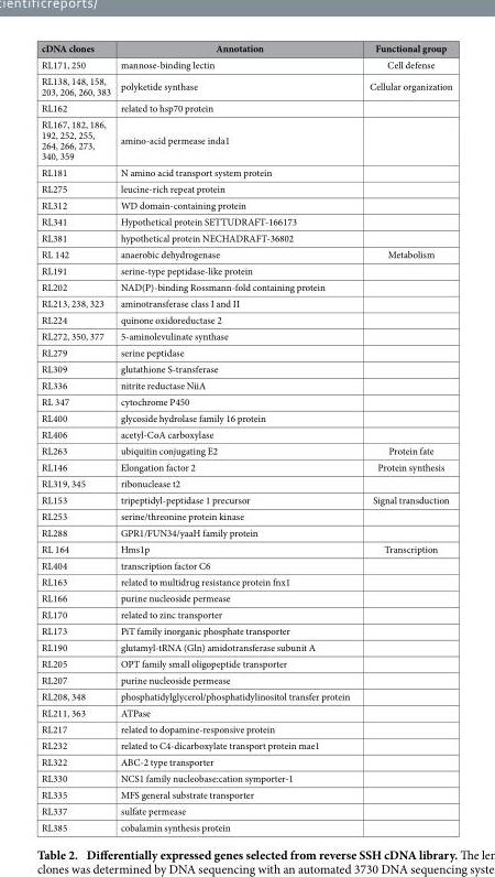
<table><thead><tr><td>cDNA clones</td><td>Annotation</td><td>Functional group</td></tr></thead><tbody><tr><td>RL171, 250</td><td>mannose-binding lectin</td><td>Cell defense</td></tr><tr><td>RL138, 148, 158, 203, 206, 260, 383</td><td>polyketide synthase</td><td>Cellular organization</td></tr><tr><td>RL162</td><td>related to hsp70 protein</td><td></td></tr><tr><td>RL167, 182, 186, 192, 252, 255, 264, 266, 273, 340, 359</td><td>amino-acid permease inda1</td><td></td></tr><tr><td>RL181</td><td>N amino acid transport system protein</td><td></td></tr><tr><td>RL275</td><td>leucine-rich repeat protein</td><td></td></tr><tr><td>RL312</td><td>WD domain-containing protein</td><td></td></tr><tr><td>RL341</td><td>Hypothetical protein SETTUDRAFT-166173</td><td></td></tr><tr><td>RL381</td><td>hypothetical protein NECHADRAFT-36802</td><td></td></tr><tr><td>RL 142</td><td>anaerobic dehydrogenase</td><td>Metabolism</td></tr><tr><td>RL191</td><td>serine-type peptidase-like protein</td><td></td></tr><tr><td>RL202</td><td>NAD(P)-binding Rossmann-fold containing protein</td><td></td></tr><tr><td>RL213, 238, 323</td><td>aminotransferase class I and II</td><td></td></tr><tr><td>RL224</td><td>quinone oxidoreductase 2</td><td></td></tr><tr><td>RL272, 350, 377</td><td>5-aminolevulinate synthase</td><td></td></tr><tr><td>RL279</td><td>serine peptidase</td><td></td></tr><tr><td>RL309</td><td>glutathione S-transferase</td><td></td></tr><tr><td>RL336</td><td>nitrite reductase NiiA</td><td></td></tr><tr><td>RL 347</td><td>cytochrome P450</td><td></td></tr><tr><td>RL400</td><td>glycoside hydrolase family 16 protein</td><td></td></tr><tr><td>RL406</td><td>acetyl-CoA carboxylase</td><td></td></tr><tr><td>RL263</td><td>ubiquitin conjugating E2</td><td>Protein fate</td></tr><tr><td>RL146</td><td>Elongation factor 2</td><td>Protein synthesis</td></tr><tr><td>RL319, 345</td><td>ribonuclease t2</td><td></td></tr><tr><td>RL153</td><td>tripeptidyl-peptidase 1 precursor</td><td>Signal transduction</td></tr><tr><td>RL253</td><td>serine/threonine protein kinase</td><td></td></tr><tr><td>RL288</td><td>GPR1/FUN34/yaaH family protein</td><td></td></tr><tr><td>RL 164</td><td>Hms1p</td><td>Transcription</td></tr><tr><td>RL404</td><td>transcription factor C6</td><td></td></tr><tr><td>RL163</td><td>related to multidrug resistance protein fnx1</td><td></td></tr><tr><td>RL166</td><td>purine nucleoside permease</td><td></td></tr><tr><td>RL170</td><td>related to zinc transporter</td><td></td></tr><tr><td>RL173</td><td>PiT family inorganic phosphate transporter</td><td></td></tr><tr><td>RL190</td><td>glutamyl-tRNA (Gln) amidotransferase subunit A</td><td></td></tr><tr><td>RL205</td><td>OPT family small oligopeptide transporter</td><td></td></tr><tr><td>RL207</td><td>purine nucleoside permease</td><td></td></tr><tr><td>RL208, 348</td><td>phosphatidylglycerol/phosphatidylinositol transfer protein</td><td></td></tr><tr><td>RL211, 363</td><td>ATPase</td><td></td></tr><tr><td>RL217</td><td>related to dopamine-responsive protein</td><td></td></tr><tr><td>RL232</td><td>related to C4-dicarboxylate transport protein mae1</td><td></td></tr><tr><td>RL322</td><td>ABC-2 type transporter</td><td></td></tr><tr><td>RL330</td><td>NCS1 family nucleobase:cation symporter-1</td><td></td></tr><tr><td>RL335</td><td>MFS general substrate transporter</td><td></td></tr><tr><td>RL337</td><td>sulfate permease</td><td></td></tr><tr><td>RL385</td><td>cobalamin synthesis protein</td><td></td></tr></tbody></table>